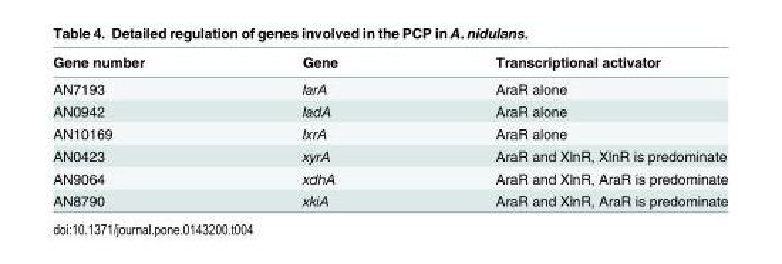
<table><thead><tr><td>Gene number</td><td>Gene</td><td>Transcriptional activator</td></tr></thead><tbody><tr><td>AN7193</td><td>larA</td><td>AraR alone</td></tr><tr><td>AN0942</td><td>ladA</td><td>AraR alone</td></tr><tr><td>AN10169</td><td>lxrA</td><td>AraR alone</td></tr><tr><td>AN0423</td><td>xyrA</td><td>AraR and XlnR, XlnR is predominate</td></tr><tr><td>AN9064</td><td>xdhA</td><td>AraR and XlnR, AraR is predominate</td></tr><tr><td>AN8790</td><td>xkiA</td><td>AraR and XlnR, AraR is predominate</td></tr></tbody></table>